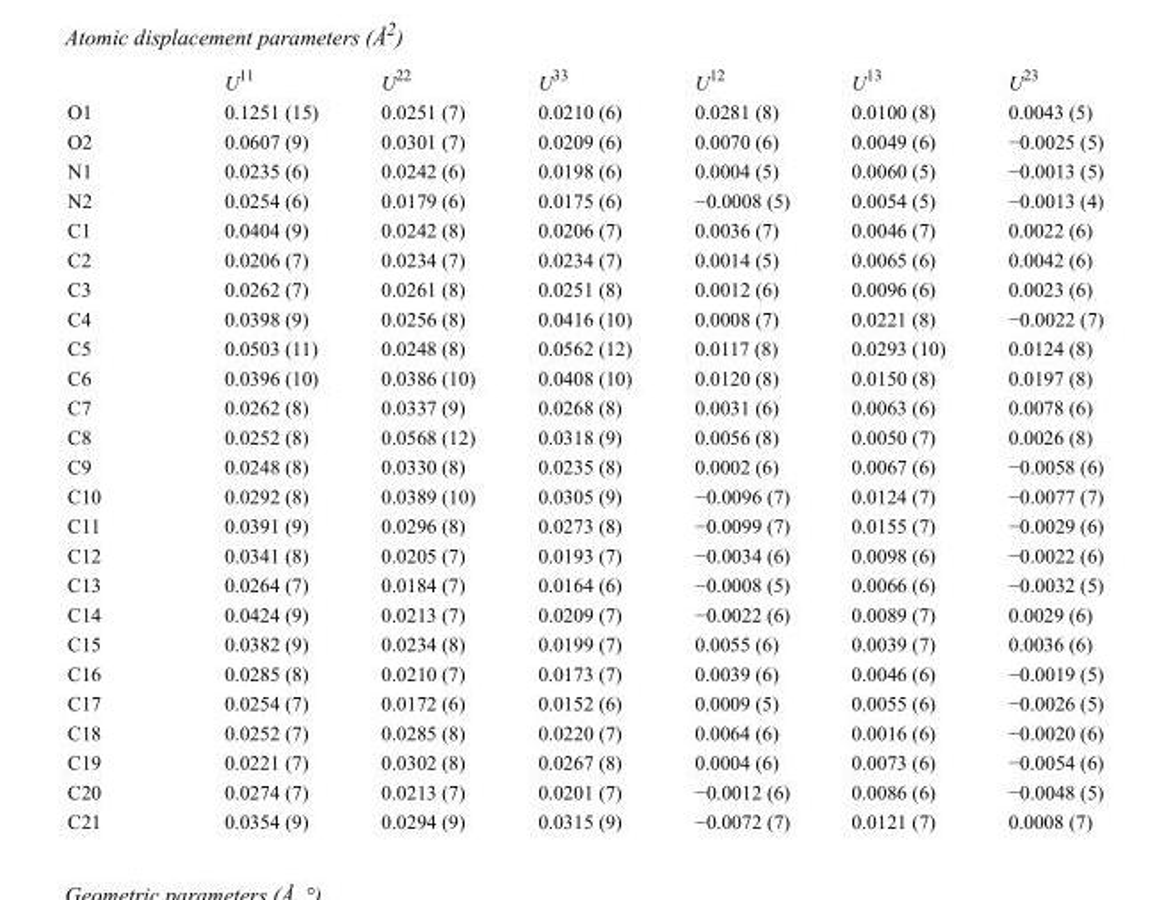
<table><thead><tr><td></td><td>U<sup>11</sup></td><td>U<sup>22</sup></td><td>U<sup>33</sup></td><td>U<sup>12</sup></td><td>U<sup>13</sup></td><td>U<sup>23</sup></td></tr></thead><tbody><tr><td>O1</td><td>0.1251 (15)</td><td>0.0251 (7)</td><td>0.0210 (6)</td><td>0.0281 (8)</td><td>0.0100 (8)</td><td>0.0043 (5)</td></tr><tr><td>O2</td><td>0.0607 (9)</td><td>0.0301 (7)</td><td>0.0209 (6)</td><td>0.0070 (6)</td><td>0.0049 (6)</td><td>−0.0025 (5)</td></tr><tr><td>N1</td><td>0.0235 (6)</td><td>0.0242 (6)</td><td>0.0198 (6)</td><td>0.0004 (5)</td><td>0.0060 (5)</td><td>−0.0013 (5)</td></tr><tr><td>N2</td><td>0.0254 (6)</td><td>0.0179 (6)</td><td>0.0175 (6)</td><td>−0.0008 (5)</td><td>0.0054 (5)</td><td>−0.0013 (4)</td></tr><tr><td>C1</td><td>0.0404 (9)</td><td>0.0242 (8)</td><td>0.0206 (7)</td><td>0.0036 (7)</td><td>0.0046 (7)</td><td>0.0022 (6)</td></tr><tr><td>C2</td><td>0.0206 (7)</td><td>0.0234 (7)</td><td>0.0234 (7)</td><td>0.0014 (5)</td><td>0.0065 (6)</td><td>0.0042 (6)</td></tr><tr><td>C3</td><td>0.0262 (7)</td><td>0.0261 (8)</td><td>0.0251 (8)</td><td>0.0012 (6)</td><td>0.0096 (6)</td><td>0.0023 (6)</td></tr><tr><td>C4</td><td>0.0398 (9)</td><td>0.0256 (8)</td><td>0.0416 (10)</td><td>0.0008 (7)</td><td>0.0221 (8)</td><td>−0.0022 (7)</td></tr><tr><td>C5</td><td>0.0503 (11)</td><td>0.0248 (8)</td><td>0.0562 (12)</td><td>0.0117 (8)</td><td>0.0293 (10)</td><td>0.0124 (8)</td></tr><tr><td>C6</td><td>0.0396 (10)</td><td>0.0386 (10)</td><td>0.0408 (10)</td><td>0.0120 (8)</td><td>0.0150 (8)</td><td>0.0197 (8)</td></tr><tr><td>C7</td><td>0.0262 (8)</td><td>0.0337 (9)</td><td>0.0268 (8)</td><td>0.0031 (6)</td><td>0.0063 (6)</td><td>0.0078 (6)</td></tr><tr><td>C8</td><td>0.0252 (8)</td><td>0.0568 (12)</td><td>0.0318 (9)</td><td>0.0056 (8)</td><td>0.0050 (7)</td><td>0.0026 (8)</td></tr><tr><td>C9</td><td>0.0248 (8)</td><td>0.0330 (8)</td><td>0.0235 (8)</td><td>0.0002 (6)</td><td>0.0067 (6)</td><td>−0.0058 (6)</td></tr><tr><td>C10</td><td>0.0292 (8)</td><td>0.0389 (10)</td><td>0.0305 (9)</td><td>−0.0096 (7)</td><td>0.0124 (7)</td><td>−0.0077 (7)</td></tr><tr><td>C11</td><td>0.0391 (9)</td><td>0.0296 (8)</td><td>0.0273 (8)</td><td>−0.0099 (7)</td><td>0.0155 (7)</td><td>−0.0029 (6)</td></tr><tr><td>C12</td><td>0.0341 (8)</td><td>0.0205 (7)</td><td>0.0193 (7)</td><td>−0.0034 (6)</td><td>0.0098 (6)</td><td>−0.0022 (6)</td></tr><tr><td>C13</td><td>0.0264 (7)</td><td>0.0184 (7)</td><td>0.0164 (6)</td><td>−0.0008 (5)</td><td>0.0066 (6)</td><td>−0.0032 (5)</td></tr><tr><td>C14</td><td>0.0424 (9)</td><td>0.0213 (7)</td><td>0.0209 (7)</td><td>−0.0022 (6)</td><td>0.0089 (7)</td><td>0.0029 (6)</td></tr><tr><td>C15</td><td>0.0382 (9)</td><td>0.0234 (8)</td><td>0.0199 (7)</td><td>0.0055 (6)</td><td>0.0039 (7)</td><td>0.0036 (6)</td></tr><tr><td>C16</td><td>0.0285 (8)</td><td>0.0210 (7)</td><td>0.0173 (7)</td><td>0.0039 (6)</td><td>0.0046 (6)</td><td>−0.0019 (5)</td></tr><tr><td>C17</td><td>0.0254 (7)</td><td>0.0172 (6)</td><td>0.0152 (6)</td><td>0.0009 (5)</td><td>0.0055 (6)</td><td>−0.0026 (5)</td></tr><tr><td>C18</td><td>0.0252 (7)</td><td>0.0285 (8)</td><td>0.0220 (7)</td><td>0.0064 (6)</td><td>0.0016 (6)</td><td>−0.0020 (6)</td></tr><tr><td>C19</td><td>0.0221 (7)</td><td>0.0302 (8)</td><td>0.0267 (8)</td><td>0.0004 (6)</td><td>0.0073 (6)</td><td>−0.0054 (6)</td></tr><tr><td>C20</td><td>0.0274 (7)</td><td>0.0213 (7)</td><td>0.0201 (7)</td><td>−0.0012 (6)</td><td>0.0086 (6)</td><td>−0.0048 (5)</td></tr><tr><td>C21</td><td>0.0354 (9)</td><td>0.0294 (9)</td><td>0.0315 (9)</td><td>−0.0072 (7)</td><td>0.0121 (7)</td><td>0.0008 (7)</td></tr></tbody></table>